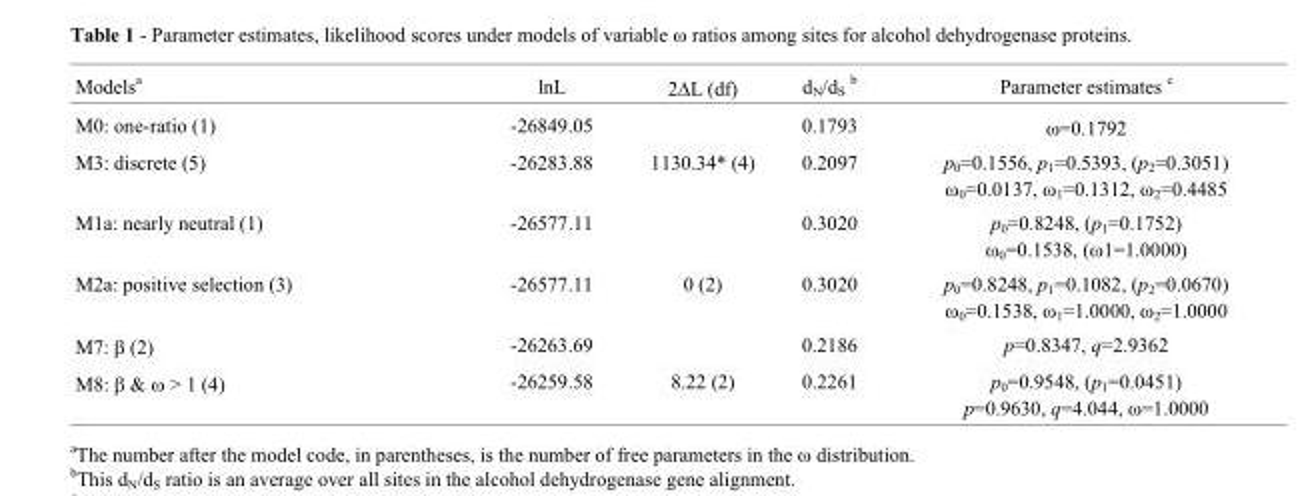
<table><thead><tr><td>Models<sup>a</sup></td><td>lnL</td><td>2ΔL (df)</td><td>d<sub>N</sub>/d<sub>S</sub> <sup>b</sup></td><td>Parameter estimates <sup>c</sup></td></tr></thead><tbody><tr><td>M0: one-ratio (1)</td><td>-26849.05</td><td></td><td>0.1793</td><td>ω=0.1792</td></tr><tr><td>M3: discrete (5)</td><td>-26283.88</td><td>1130.34* (4)</td><td>0.2097</td><td>p<sub>0</sub>=0.1556, p<sub>1</sub>=0.5393, (p<sub>2</sub>=0.3051) ω<sub>0</sub>=0.0137, ω<sub>1</sub>=0.1312, ω<sub>2</sub>=0.4485</td></tr><tr><td>M1a: nearly neutral (1)</td><td>-26577.11</td><td></td><td>0.3020</td><td>p<sub>0</sub>=0.8248, (p<sub>1</sub>=0.1752) ω<sub>0</sub>=0.1538, (ω1=1.0000)</td></tr><tr><td>M2a: positive selection (3)</td><td>-26577.11</td><td>0 (2)</td><td>0.3020</td><td>p<sub>0</sub>=0.8248, p<sub>1</sub>=0.1082, (p<sub>2</sub>=0.0670) ω<sub>0</sub>=0.1538, ω<sub>1</sub>=1.0000, ω<sub>2</sub>=1.0000</td></tr><tr><td>M7: β (2)</td><td>-26263.69</td><td></td><td>0.2186</td><td>p=0.8347, q=2.9362</td></tr><tr><td>M8: β &amp; ω &gt; 1 (4)</td><td>-26259.58</td><td>8.22 (2)</td><td>0.2261</td><td>p<sub>0</sub>=0.9548, (p<sub>1</sub>=0.0451) p=0.9630, q=4.044, ω=1.0000</td></tr></tbody></table>